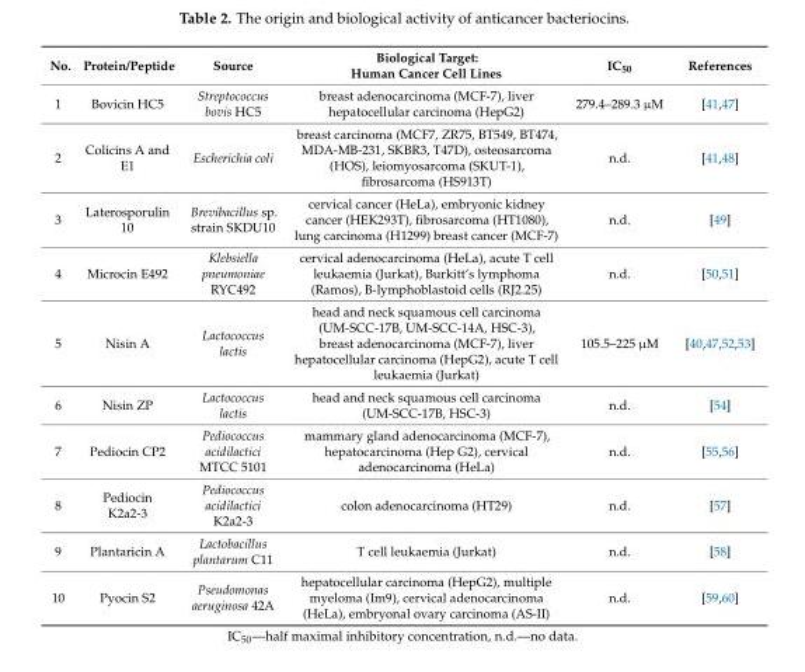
<table><thead><tr><td>No.</td><td>Protein/Peptide</td><td>Source</td><td>Biological Target: Human Cancer Cell Lines</td><td>IC<sub>50</sub></td><td>References</td></tr></thead><tbody><tr><td>1</td><td>Bovicin HC5</td><td>Streptococcus bovis HC5</td><td>breast adenocarcinoma (MCF-7), liver hepatocellular carcinoma (HepG2)</td><td>279.4–289.3 µM</td><td>[41,47]</td></tr><tr><td>2</td><td>Colicins A and E1</td><td>Escherichia coli</td><td>breast carcinoma (MCF7, ZR75, BT549, BT474, MDA-MB-231, SKBR3, T47D), osteosarcoma (HOS), leiomyosarcoma (SKUT-1), fibrosarcoma (HS913T)</td><td>n.d.</td><td>[41,48]</td></tr><tr><td>3</td><td>Laterosporulin 10</td><td>Brevibacillus sp. strain SKDU10</td><td>cervical cancer (HeLa), embryonic kidney cancer (HEK293T), fibrosarcoma (HT1080), lung carcinoma (H1299) breast cancer (MCF-7)</td><td>n.d.</td><td>[49]</td></tr><tr><td>4</td><td>Microcin E492</td><td>Klebsiella pneumoniae RYC492</td><td>cervical adenocarcinoma (HeLa), acute T cell leukaemia (Jurkat), Burkitt’s lymphoma (Ramos), B-lymphoblastoid cells (RJ2.25)</td><td>n.d.</td><td>[50,51]</td></tr><tr><td>5</td><td>Nisin A</td><td>Lactococcus lactis</td><td>head and neck squamous cell carcinoma (UM-SCC-17B, UM-SCC-14A, HSC-3), breast adenocarcinoma (MCF-7), liver hepatocellular carcinoma (HepG2), acute T cell leukaemia (Jurkat)</td><td>105.5–225 µM</td><td>[40,47,52,53]</td></tr><tr><td>6</td><td>Nisin ZP</td><td>Lactococcus lactis</td><td>head and neck squamous cell carcinoma (UM-SCC-17B, HSC-3)</td><td>n.d.</td><td>[54]</td></tr><tr><td>7</td><td>Pediocin CP2</td><td>Pediococcus acidilactici MTCC 5101</td><td>mammary gland adenocarcinoma (MCF-7), hepatocarcinoma (Hep G2), cervical adenocarcinoma (HeLa)</td><td>n.d.</td><td>[55,56]</td></tr><tr><td>8</td><td>Pediocin K2a2-3</td><td>Pediococcus acidilactici K2a2-3</td><td>colon adenocarcinoma (HT29)</td><td>n.d.</td><td>[57]</td></tr><tr><td>9</td><td>Plantaricin A</td><td>Lactobacillus plantarum C11</td><td>T cell leukaemia (Jurkat)</td><td>n.d.</td><td>[58]</td></tr><tr><td>10</td><td>Pyocin S2</td><td>Pseudomonas aeruginosa 42A</td><td>hepatocellular carcinoma (HepG2), multiple myeloma (Im9), cervical adenocarcinoma (HeLa), embryonal ovary carcinoma (AS-II)</td><td>n.d.</td><td>[59,60]</td></tr></tbody></table>